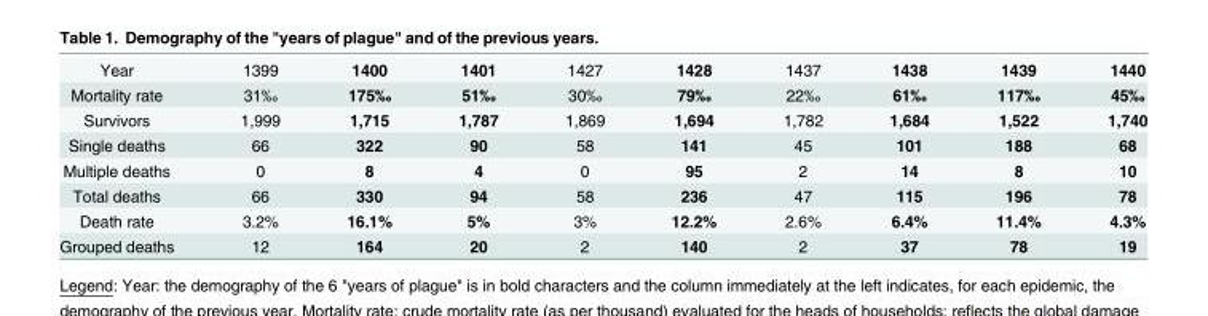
<table><tbody><tr><td>Year</td><td>1399</td><td>1400</td><td>1401</td><td>1427</td><td>1428</td><td>1437</td><td>1438</td><td>1439</td><td>1440</td></tr><tr><td>Mortality rate</td><td>31‰</td><td>175‰</td><td>51‰</td><td>30‰</td><td>79‰</td><td>22‰</td><td>61‰</td><td>117‰</td><td>45‰</td></tr><tr><td>Survivors</td><td>1,999</td><td>1,715</td><td>1,787</td><td>1,869</td><td>1,694</td><td>1,782</td><td>1,684</td><td>1,522</td><td>1,740</td></tr><tr><td>Single deaths</td><td>66</td><td>322</td><td>90</td><td>58</td><td>141</td><td>45</td><td>101</td><td>188</td><td>68</td></tr><tr><td>Multiple deaths</td><td>0</td><td>8</td><td>4</td><td>0</td><td>95</td><td>2</td><td>14</td><td>8</td><td>10</td></tr><tr><td>Total deaths</td><td>66</td><td>330</td><td>94</td><td>58</td><td>236</td><td>47</td><td>115</td><td>196</td><td>78</td></tr><tr><td>Death rate</td><td>3.2%</td><td>16.1%</td><td>5%</td><td>3%</td><td>12.2%</td><td>2.6%</td><td>6.4%</td><td>11.4%</td><td>4.3%</td></tr><tr><td>Grouped deaths</td><td>12</td><td>164</td><td>20</td><td>2</td><td>140</td><td>2</td><td>37</td><td>78</td><td>19</td></tr></tbody></table>